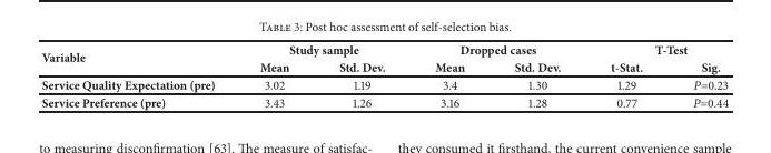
<table><thead><tr><td rowspan="2">Variable</td><td colspan="2">Study sample</td><td colspan="2">Dropped cases</td><td colspan="2">T-Test</td></tr><tr><td>Mean</td><td>Std. Dev.</td><td>Mean</td><td>Std. Dev.</td><td>t-Stat.</td><td>Sig.</td></tr></thead><tbody><tr><td>Service Quality Expectation (pre)</td><td>3.02</td><td>1.19</td><td>3.4</td><td>1.30</td><td>1.29</td><td>P=0.23</td></tr><tr><td>Service Preference (pre)</td><td>3.43</td><td>1.26</td><td>3.16</td><td>1.28</td><td>0.77</td><td>P=0.44</td></tr></tbody></table>